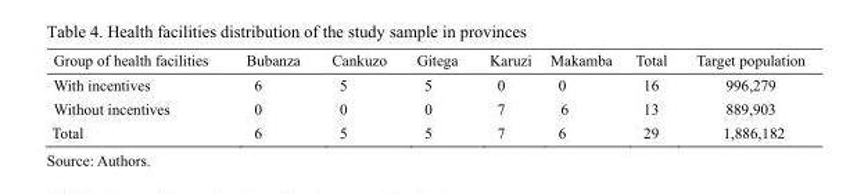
<table><thead><tr><td>Group of health facilities</td><td>Bubanza</td><td>Cankuzo</td><td>Gitega</td><td>Karuzi</td><td>Makamba</td><td>Total</td><td>Target population</td></tr></thead><tbody><tr><td>With incentives</td><td>6</td><td>5</td><td>5</td><td>0</td><td>0</td><td>16</td><td>996,279</td></tr><tr><td>Without incentives</td><td>0</td><td>0</td><td>0</td><td>7</td><td>6</td><td>13</td><td>889,903</td></tr><tr><td>Total</td><td>6</td><td>5</td><td>5</td><td>7</td><td>6</td><td>29</td><td>1,886,182</td></tr></tbody></table>